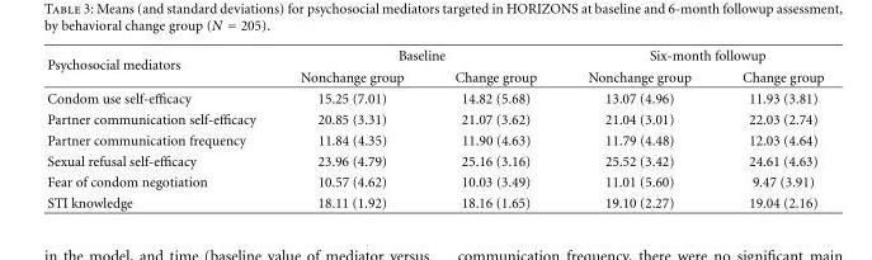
<table><thead><tr><td rowspan="2">Psychosocial mediators</td><td colspan="2">Baseline</td><td colspan="2">Six-month followup</td></tr><tr><td>Nonchange group</td><td>Change group</td><td>Nonchange group</td><td>Change group</td></tr></thead><tbody><tr><td>Condom use self-efficacy</td><td>15.25 (7.01)</td><td>14.82 (5.68)</td><td>13.07 (4.96)</td><td>11.93 (3.81)</td></tr><tr><td>Partner communication self-efficacy</td><td>20.85 (3.31)</td><td>21.07 (3.62)</td><td>21.04 (3.01)</td><td>22.03 (2.74)</td></tr><tr><td>Partner communication frequency</td><td>11.84 (4.35)</td><td>11.90 (4.63)</td><td>11.79 (4.48)</td><td>12.03 (4.64)</td></tr><tr><td>Sexual refusal self-efficacy</td><td>23.96 (4.79)</td><td>25.16 (3.16)</td><td>25.52 (3.42)</td><td>24.61 (4.63)</td></tr><tr><td>Fear of condom negotiation</td><td>10.57 (4.62)</td><td>10.03 (3.49)</td><td>11.01 (5.60)</td><td>9.47 (3.91)</td></tr><tr><td>STI knowledge</td><td>18.11 (1.92)</td><td>18.16 (1.65)</td><td>19.10 (2.27)</td><td>19.04 (2.16)</td></tr></tbody></table>